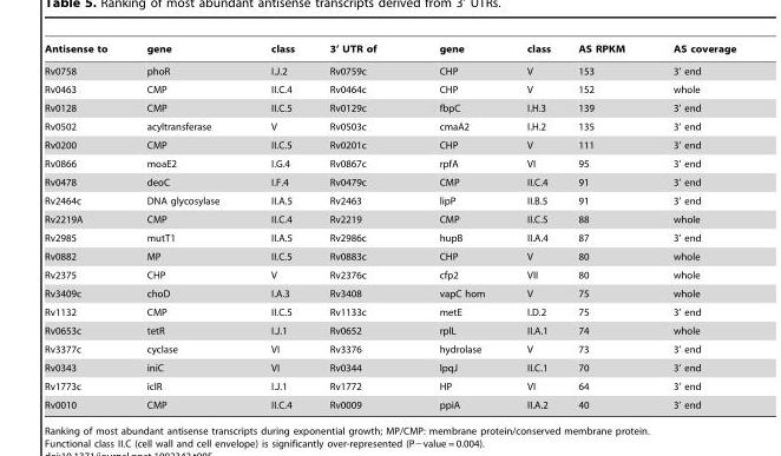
<table><thead><tr><td>Antisense to</td><td>gene</td><td>class</td><td>3’ UTR of</td><td>gene</td><td>class</td><td>AS RPKM</td><td>AS coverage</td></tr></thead><tbody><tr><td>Rv0758</td><td>phoR</td><td>I.J.2</td><td>Rv0759c</td><td>CHP</td><td>V</td><td>153</td><td>3’ end</td></tr><tr><td>Rv0463</td><td>CMP</td><td>II.C.4</td><td>Rv0464c</td><td>CHP</td><td>V</td><td>152</td><td>whole</td></tr><tr><td>Rv0128</td><td>CMP</td><td>II.C.5</td><td>Rv0129c</td><td>fbpC</td><td>I.H.3</td><td>139</td><td>3’ end</td></tr><tr><td>Rv0502</td><td>acyltransferase</td><td>V</td><td>Rv0503c</td><td>cmaA2</td><td>I.H.2</td><td>135</td><td>3’ end</td></tr><tr><td>Rv0200</td><td>CMP</td><td>II.C.5</td><td>Rv0201c</td><td>CHP</td><td>V</td><td>111</td><td>3’ end</td></tr><tr><td>Rv0866</td><td>moaE2</td><td>I.G.4</td><td>Rv0867c</td><td>rpfA</td><td>VI</td><td>95</td><td>3’ end</td></tr><tr><td>Rv0478</td><td>deoC</td><td>I.F.4</td><td>Rv0479c</td><td>CMP</td><td>II.C.4</td><td>91</td><td>3’ end</td></tr><tr><td>Rv2464c</td><td>DNA glycosylase</td><td>II.A.5</td><td>Rv2463</td><td>lipP</td><td>II.B.5</td><td>91</td><td>3’ end</td></tr><tr><td>Rv2219A</td><td>CMP</td><td>II.C.4</td><td>Rv2219</td><td>CMP</td><td>II.C.5</td><td>88</td><td>whole</td></tr><tr><td>Rv2985</td><td>mutT1</td><td>II.A.5</td><td>Rv2986c</td><td>hupB</td><td>II.A.4</td><td>87</td><td>3’ end</td></tr><tr><td>Rv0882</td><td>MP</td><td>II.C.5</td><td>Rv0883c</td><td>CHP</td><td>V</td><td>80</td><td>whole</td></tr><tr><td>Rv2375</td><td>CHP</td><td>V</td><td>Rv2376c</td><td>cfp2</td><td>VII</td><td>80</td><td>whole</td></tr><tr><td>Rv3409c</td><td>choD</td><td>I.A.3</td><td>Rv3408</td><td>vapC hom</td><td>V</td><td>75</td><td>whole</td></tr><tr><td>Rv1132</td><td>CMP</td><td>II.C.5</td><td>Rv1133c</td><td>metE</td><td>I.D.2</td><td>75</td><td>3’ end</td></tr><tr><td>Rv0653c</td><td>tetR</td><td>I.J.1</td><td>Rv0652</td><td>rplL</td><td>II.A.1</td><td>74</td><td>whole</td></tr><tr><td>Rv3377c</td><td>cyclase</td><td>VI</td><td>Rv3376</td><td>hydrolase</td><td>V</td><td>73</td><td>3’ end</td></tr><tr><td>Rv0343</td><td>iniC</td><td>VI</td><td>Rv0344</td><td>lpqJ</td><td>II.C.1</td><td>70</td><td>3’ end</td></tr><tr><td>Rv1773c</td><td>iclR</td><td>I.J.1</td><td>Rv1772</td><td>HP</td><td>VI</td><td>64</td><td>3’ end</td></tr><tr><td>Rv0010</td><td>CMP</td><td>II.C.4</td><td>Rv0009</td><td>ppiA</td><td>II.A.2</td><td>40</td><td>3’ end</td></tr></tbody></table>